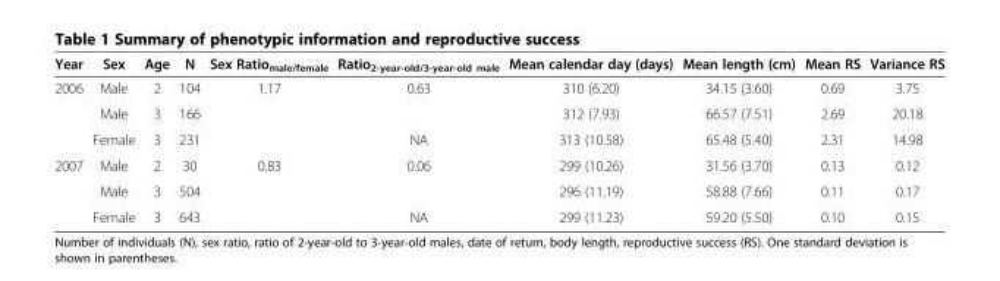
<table><thead><tr><td>Year</td><td>Sex</td><td>Age</td><td>N</td><td>Sex Ratio<sub>male/female</sub></td><td>Ratio<sub>2-year-old/3-year-old male</sub></td><td>Mean calendar day (days)</td><td>Mean length (cm)</td><td>Mean RS</td><td>Variance RS</td></tr></thead><tbody><tr><td rowspan="3">2006</td><td>Male</td><td>2</td><td>104</td><td>1.17</td><td>0.63</td><td>310 (6.20)</td><td>34.15 (3.60)</td><td>0.69</td><td>3.75</td></tr><tr><td>Male</td><td>3</td><td>166</td><td></td><td></td><td>312 (7.93)</td><td>66.57 (7.51)</td><td>2.69</td><td>20.18</td></tr><tr><td>Female</td><td>3</td><td>231</td><td></td><td>NA</td><td>313 (10.58)</td><td>65.48 (5.40)</td><td>2.31</td><td>14.98</td></tr><tr><td rowspan="3">2007</td><td>Male</td><td>2</td><td>30</td><td>0.83</td><td>0.06</td><td>299 (10.26)</td><td>31.56 (3.70)</td><td>0.13</td><td>0.12</td></tr><tr><td>Male</td><td>3</td><td>504</td><td></td><td></td><td>296 (11.19)</td><td>58.88 (7.66)</td><td>0.11</td><td>0.17</td></tr><tr><td>Female</td><td>3</td><td>643</td><td></td><td>NA</td><td>299 (11.23)</td><td>59.20 (5.50)</td><td>0.10</td><td>0.15</td></tr></tbody></table>